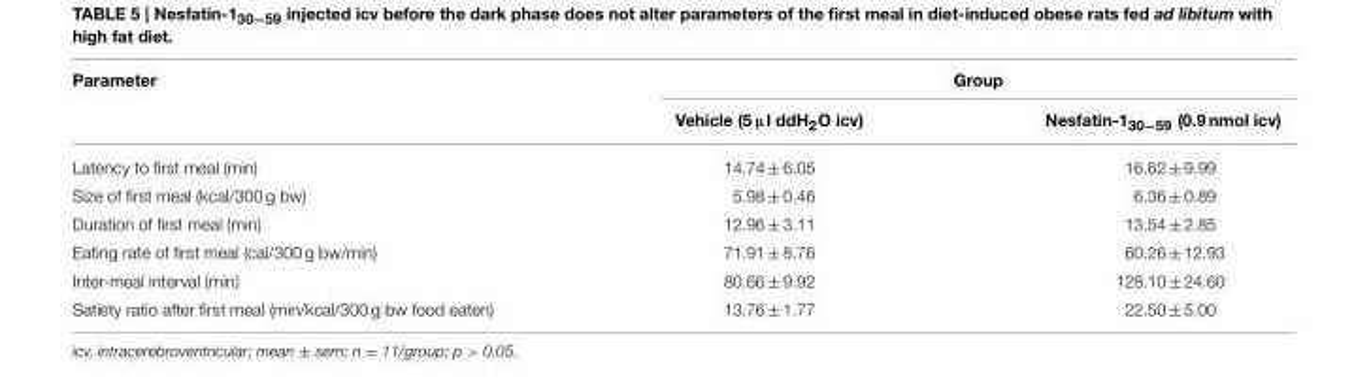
<table><thead><tr><td rowspan="2">Parameter</td><td colspan="2">Group</td></tr><tr><td>Vehicle (5 µl ddH<sub>2</sub>O icv)</td><td>Nesfatin-1<sub>30−59</sub> (0.9 nmol icv)</td></tr></thead><tbody><tr><td>Latency to first meal (min)</td><td>14.74 ± 6.05</td><td>16.62 ± 9.99</td></tr><tr><td>Size of first meal (kcal/300 g bw)</td><td>5.98 ± 0.46</td><td>6.36 ± 0.89</td></tr><tr><td>Duration of first meal (min)</td><td>12.96 ± 3.11</td><td>13.54 ± 2.85</td></tr><tr><td>Eating rate of first meal (cal/300 g bw/min)</td><td>71.91 ± 8.76</td><td>60.26 ± 12.93</td></tr><tr><td>Inter-meal interval (min)</td><td>80.66 ± 9.92</td><td>128.10 ± 24.60</td></tr><tr><td>Satiety ratio after first meal (min/kcal/300 g bw food eaten)</td><td>13.76 ± 1.77</td><td>22.50 ± 5.00</td></tr></tbody></table>